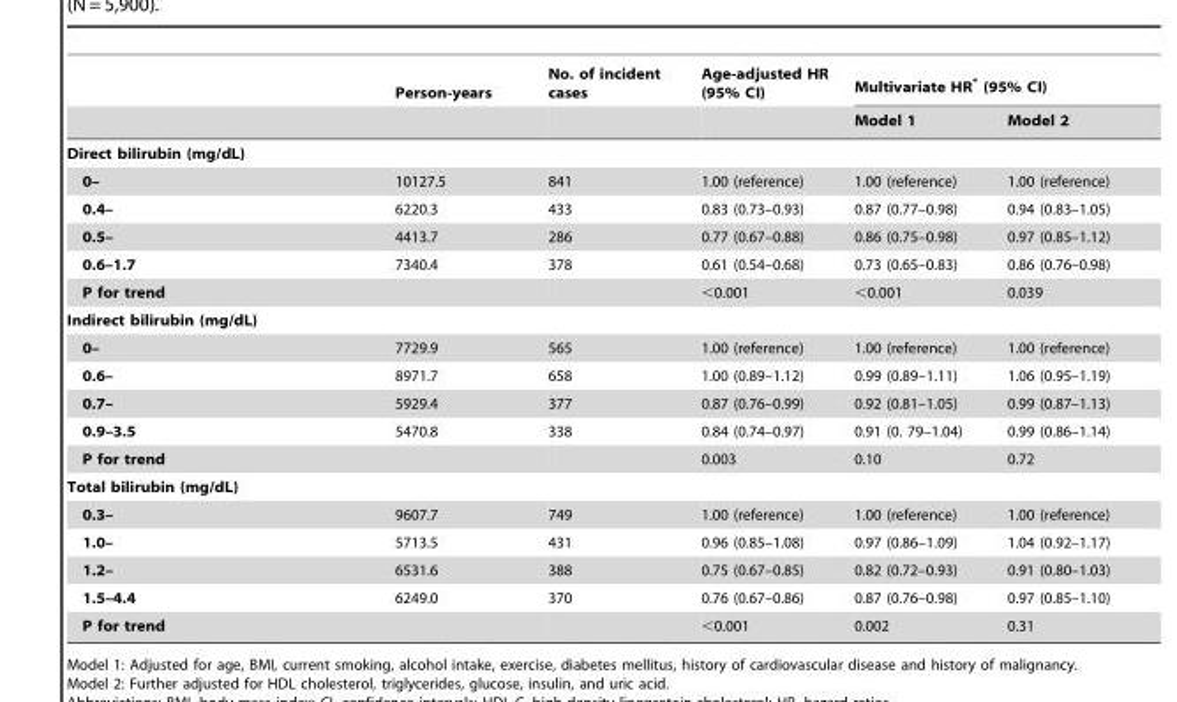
<table><thead><tr><td rowspan="2"></td><td rowspan="2">Person-years</td><td rowspan="2">No. of incident cases</td><td rowspan="2">Age-adjusted HR (95% CI)</td><td colspan="2">Multivariate HR* (95% CI)</td></tr><tr><td>Model 1</td><td>Model 2</td></tr></thead><tbody><tr><td colspan="6">Direct bilirubin (mg/dL)</td></tr><tr><td>0–</td><td>10127.5</td><td>841</td><td>1.00 (reference)</td><td>1.00 (reference)</td><td>1.00 (reference)</td></tr><tr><td>0.4–</td><td>6220.3</td><td>433</td><td>0.83 (0.73–0.93)</td><td>0.87 (0.77–0.98)</td><td>0.94 (0.83–1.05)</td></tr><tr><td>0.5–</td><td>4413.7</td><td>286</td><td>0.77 (0.67–0.88)</td><td>0.86 (0.75–0.98)</td><td>0.97 (0.85–1.12)</td></tr><tr><td>0.6–1.7</td><td>7340.4</td><td>378</td><td>0.61 (0.54–0.68)</td><td>0.73 (0.65–0.83)</td><td>0.86 (0.76–0.98)</td></tr><tr><td>P for trend</td><td></td><td></td><td>&lt;0.001</td><td>&lt;0.001</td><td>0.039</td></tr><tr><td colspan="6">Indirect bilirubin (mg/dL)</td></tr><tr><td>0–</td><td>7729.9</td><td>565</td><td>1.00 (reference)</td><td>1.00 (reference)</td><td>1.00 (reference)</td></tr><tr><td>0.6–</td><td>8971.7</td><td>658</td><td>1.00 (0.89–1.12)</td><td>0.99 (0.89–1.11)</td><td>1.06 (0.95–1.19)</td></tr><tr><td>0.7–</td><td>5929.4</td><td>377</td><td>0.87 (0.76–0.99)</td><td>0.92 (0.81–1.05)</td><td>0.99 (0.87–1.13)</td></tr><tr><td>0.9–3.5</td><td>5470.8</td><td>338</td><td>0.84 (0.74–0.97)</td><td>0.91 (0. 79–1.04)</td><td>0.99 (0.86–1.14)</td></tr><tr><td>P for trend</td><td></td><td></td><td>0.003</td><td>0.10</td><td>0.72</td></tr><tr><td colspan="6">Total bilirubin (mg/dL)</td></tr><tr><td>0.3–</td><td>9607.7</td><td>749</td><td>1.00 (reference)</td><td>1.00 (reference)</td><td>1.00 (reference)</td></tr><tr><td>1.0–</td><td>5713.5</td><td>431</td><td>0.96 (0.85–1.08)</td><td>0.97 (0.86–1.09)</td><td>1.04 (0.92–1.17)</td></tr><tr><td>1.2–</td><td>6531.6</td><td>388</td><td>0.75 (0.67–0.85)</td><td>0.82 (0.72–0.93)</td><td>0.91 (0.80–1.03)</td></tr><tr><td>1.5–4.4</td><td>6249.0</td><td>370</td><td>0.76 (0.67–0.86)</td><td>0.87 (0.76–0.98)</td><td>0.97 (0.85–1.10)</td></tr><tr><td>P for trend</td><td></td><td></td><td>&lt;0.001</td><td>0.002</td><td>0.31</td></tr></tbody></table>